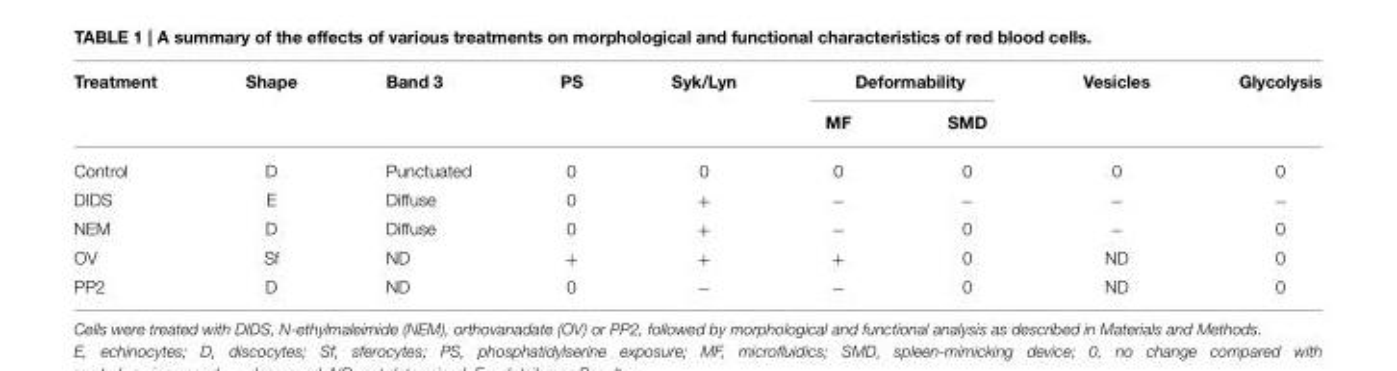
<table><thead><tr><td rowspan="2">Treatment</td><td rowspan="2">Shape</td><td rowspan="2">Band 3</td><td rowspan="2">PS</td><td rowspan="2">Syk/Lyn</td><td colspan="2">Deformability</td><td rowspan="2">Vesicles</td><td rowspan="2">Glycolysis</td></tr><tr><td>MF</td><td>SMD</td></tr></thead><tbody><tr><td>Control</td><td>D</td><td>Punctuated</td><td>0</td><td>0</td><td>0</td><td>0</td><td>0</td><td>0</td></tr><tr><td>DIDS</td><td>E</td><td>Diffuse</td><td>0</td><td>+</td><td>−</td><td>−</td><td>−</td><td>−</td></tr><tr><td>NEM</td><td>D</td><td>Diffuse</td><td>0</td><td>+</td><td>−</td><td>0</td><td>−</td><td>0</td></tr><tr><td>OV</td><td>Sf</td><td>ND</td><td>+</td><td>+</td><td>+</td><td>0</td><td>ND</td><td>0</td></tr><tr><td>PP2</td><td>D</td><td>ND</td><td>0</td><td>−</td><td>−</td><td>0</td><td>ND</td><td>0</td></tr></tbody></table>